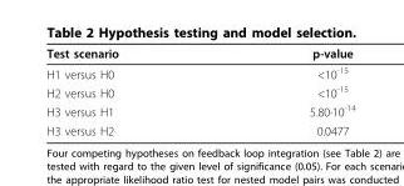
<table><thead><tr><td>Test scenario</td><td>p-value</td></tr></thead><tbody><tr><td>H1 versus H0</td><td>&lt;10<sup>-15</sup></td></tr><tr><td>H2 versus H0</td><td>&lt;10<sup>-15</sup></td></tr><tr><td>H3 versus H1</td><td>5.80·10<sup>-14</sup></td></tr><tr><td>H3 versus H2</td><td>0.0477</td></tr></tbody></table>